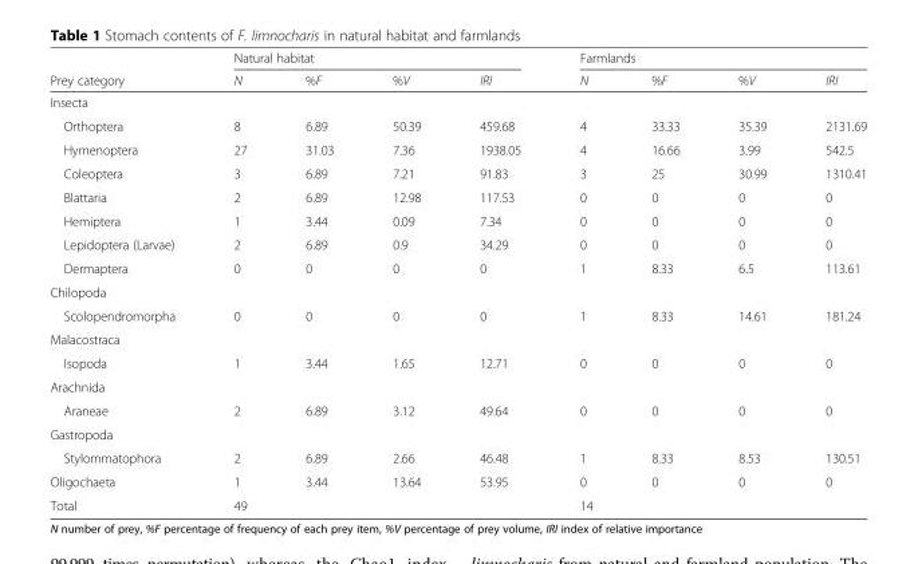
<table><thead><tr><td rowspan="2">Prey category</td><td colspan="4">Natural habitat</td><td colspan="4">Farmlands</td></tr><tr><td>N</td><td>%F</td><td>%V</td><td>IRI</td><td>N</td><td>%F</td><td>%V</td><td>IRI</td></tr></thead><tbody><tr><td colspan="9">Insecta</td></tr><tr><td>Orthoptera</td><td>8</td><td>6.89</td><td>50.39</td><td>459.68</td><td>4</td><td>33.33</td><td>35.39</td><td>2131.69</td></tr><tr><td>Hymenoptera</td><td>27</td><td>31.03</td><td>7.36</td><td>1938.05</td><td>4</td><td>16.66</td><td>3.99</td><td>542.5</td></tr><tr><td>Coleoptera</td><td>3</td><td>6.89</td><td>7.21</td><td>91.83</td><td>3</td><td>25</td><td>30.99</td><td>1310.41</td></tr><tr><td>Blattaria</td><td>2</td><td>6.89</td><td>12.98</td><td>117.53</td><td>0</td><td>0</td><td>0</td><td>0</td></tr><tr><td>Hemiptera</td><td>1</td><td>3.44</td><td>0.09</td><td>7.34</td><td>0</td><td>0</td><td>0</td><td>0</td></tr><tr><td>Lepidoptera (Larvae)</td><td>2</td><td>6.89</td><td>0.9</td><td>34.29</td><td>0</td><td>0</td><td>0</td><td>0</td></tr><tr><td>Dermaptera</td><td>0</td><td>0</td><td>0</td><td>0</td><td>1</td><td>8.33</td><td>6.5</td><td>113.61</td></tr><tr><td colspan="9">Chilopoda</td></tr><tr><td>Scolopendromorpha</td><td>0</td><td>0</td><td>0</td><td>0</td><td>1</td><td>8.33</td><td>14.61</td><td>181.24</td></tr><tr><td colspan="9">Malacostraca</td></tr><tr><td>Isopoda</td><td>1</td><td>3.44</td><td>1.65</td><td>12.71</td><td>0</td><td>0</td><td>0</td><td>0</td></tr><tr><td colspan="9">Arachnida</td></tr><tr><td>Araneae</td><td>2</td><td>6.89</td><td>3.12</td><td>49.64</td><td>0</td><td>0</td><td>0</td><td>0</td></tr><tr><td colspan="9">Gastropoda</td></tr><tr><td>Stylommatophora</td><td>2</td><td>6.89</td><td>2.66</td><td>46.48</td><td>1</td><td>8.33</td><td>8.53</td><td>130.51</td></tr><tr><td>Oligochaeta</td><td>1</td><td>3.44</td><td>13.64</td><td>53.95</td><td>0</td><td>0</td><td>0</td><td>0</td></tr><tr><td>Total</td><td>49</td><td></td><td></td><td></td><td>14</td><td></td><td></td><td></td></tr></tbody></table>